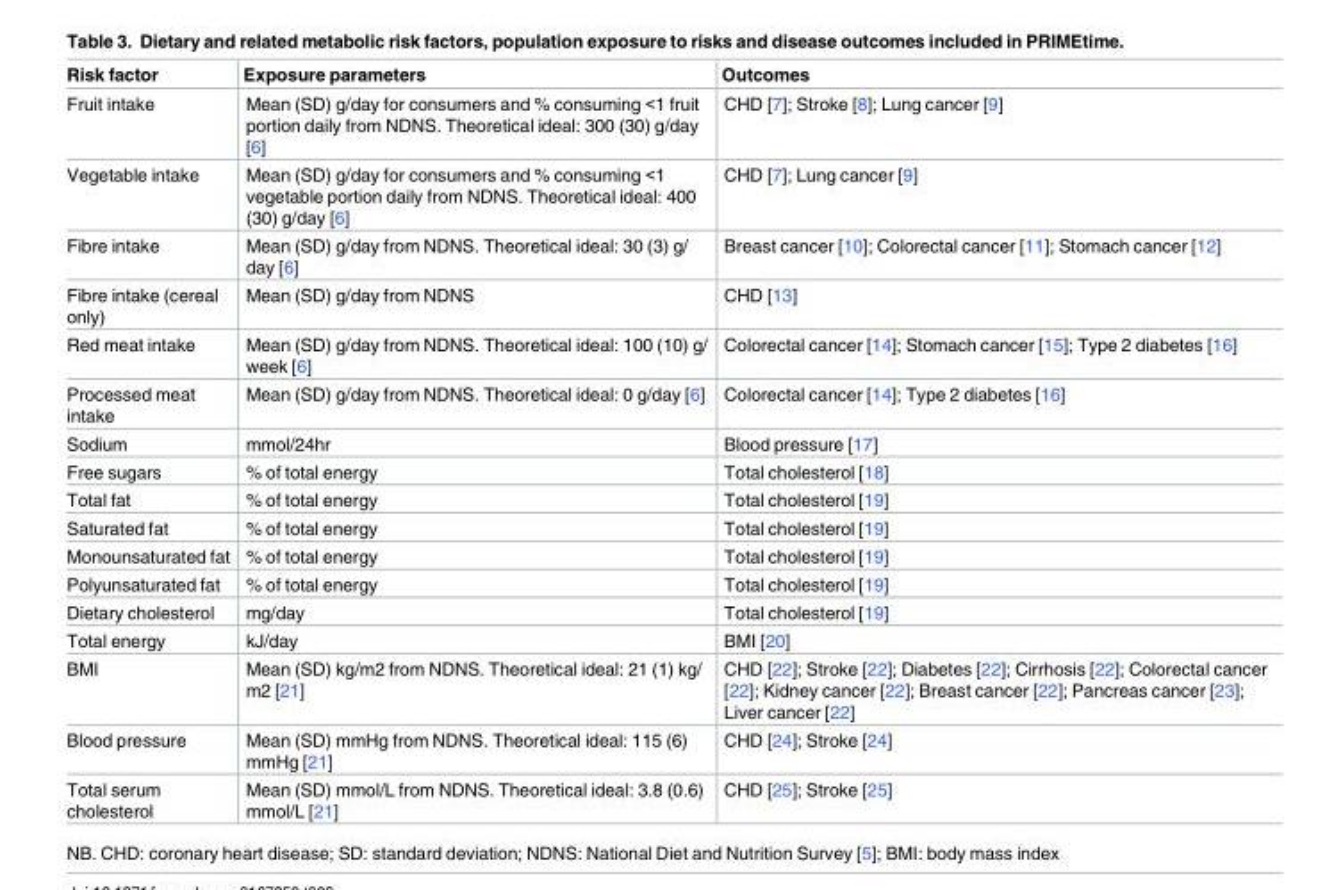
<table><thead><tr><td>Risk factor</td><td>Exposure parameters</td><td>Outcomes</td></tr></thead><tbody><tr><td>Fruit intake</td><td>Mean (SD) g/day for consumers and % consuming &lt;1 fruit portion daily from NDNS. Theoretical ideal: 300 (30) g/day [6]</td><td>CHD [7]; Stroke [8]; Lung cancer [9]</td></tr><tr><td>Vegetable intake</td><td>Mean (SD) g/day for consumers and % consuming &lt;1 vegetable portion daily from NDNS. Theoretical ideal: 400 (30) g/day [6]</td><td>CHD [7]; Lung cancer [9]</td></tr><tr><td>Fibre intake</td><td>Mean (SD) g/day from NDNS. Theoretical ideal: 30 (3) g/ day [6]</td><td>Breast cancer [10]; Colorectal cancer [11]; Stomach cancer [12]</td></tr><tr><td>Fibre intake (cereal only)</td><td>Mean (SD) g/day from NDNS</td><td>CHD [13]</td></tr><tr><td>Red meat intake</td><td>Mean (SD) g/day from NDNS. Theoretical ideal: 100 (10) g/ week [6]</td><td>Colorectal cancer [14]; Stomach cancer [15]; Type 2 diabetes [16]</td></tr><tr><td>Processed meat intake</td><td>Mean (SD) g/day from NDNS. Theoretical ideal: 0 g/day [6]</td><td>Colorectal cancer [14]; Type 2 diabetes [16]</td></tr><tr><td>Sodium</td><td>mmol/24hr</td><td>Blood pressure [17]</td></tr><tr><td>Free sugars</td><td>% of total energy</td><td>Total cholesterol [18]</td></tr><tr><td>Total fat</td><td>% of total energy</td><td>Total cholesterol [19]</td></tr><tr><td>Saturated fat</td><td>% of total energy</td><td>Total cholesterol [19]</td></tr><tr><td>Monounsaturated fat</td><td>% of total energy</td><td>Total cholesterol [19]</td></tr><tr><td>Polyunsaturated fat</td><td>% of total energy</td><td>Total cholesterol [19]</td></tr><tr><td>Dietary cholesterol</td><td>mg/day</td><td>Total cholesterol [19]</td></tr><tr><td>Total energy</td><td>kJ/day</td><td>BMI [20]</td></tr><tr><td>BMI</td><td>Mean (SD) kg/m2 from NDNS. Theoretical ideal: 21 (1) kg/ m2 [21]</td><td>CHD [22]; Stroke [22]; Diabetes [22]; Cirrhosis [22]; Colorectal cancer [22]; Kidney cancer [22]; Breast cancer [22]; Pancreas cancer [23]; Liver cancer [22]</td></tr><tr><td>Blood pressure</td><td>Mean (SD) mmHg from NDNS. Theoretical ideal: 115 (6) mmHg [21]</td><td>CHD [24]; Stroke [24]</td></tr><tr><td>Total serum cholesterol</td><td>Mean (SD) mmol/L from NDNS. Theoretical ideal: 3.8 (0.6) mmol/L [21]</td><td>CHD [25]; Stroke [25]</td></tr></tbody></table>